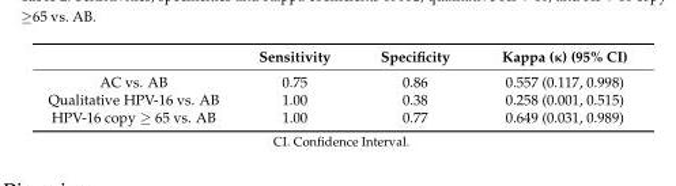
<table><thead><tr><td></td><td>Sensitivity</td><td>Specificity</td><td>Kappa (κ) (95% CI)</td></tr></thead><tbody><tr><td>AC vs. AB</td><td>0.75</td><td>0.86</td><td>0.557 (0.117, 0.998)</td></tr><tr><td>Qualitative HPV-16 vs. AB</td><td>1.00</td><td>0.38</td><td>0.258 (0.001, 0.515)</td></tr><tr><td>HPV-16 copy ≥ 65 vs. AB</td><td>1.00</td><td>0.77</td><td>0.649 (0.031, 0.989)</td></tr></tbody></table>